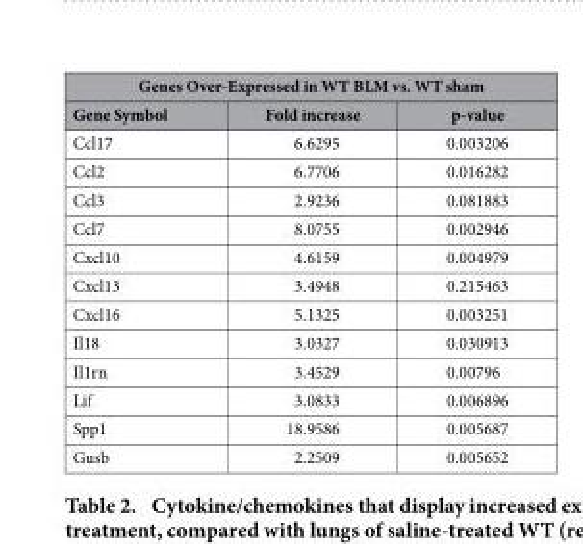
<table><thead><tr><td colspan="3">Genes Over-Expressed in WT BLM vs. WT sham</td></tr><tr><td>Gene Symbol</td><td>Fold increase</td><td>p-value</td></tr></thead><tbody><tr><td>Ccl17</td><td>6.6295</td><td>0.003206</td></tr><tr><td>Ccl2</td><td>6.7706</td><td>0.016282</td></tr><tr><td>Ccl3</td><td>2.9236</td><td>0.081883</td></tr><tr><td>Ccl7</td><td>8.0755</td><td>0.002946</td></tr><tr><td>Cxcl10</td><td>4.6159</td><td>0.004979</td></tr><tr><td>Cxcl13</td><td>3.4948</td><td>0.215463</td></tr><tr><td>Cxcl16</td><td>5.1325</td><td>0.003251</td></tr><tr><td>Il18</td><td>3.0327</td><td>0.030913</td></tr><tr><td>Il1rn</td><td>3.4529</td><td>0.00796</td></tr><tr><td>Lif</td><td>3.0833</td><td>0.006896</td></tr><tr><td>Spp1</td><td>18.9586</td><td>0.005687</td></tr><tr><td>Gusb</td><td>2.2509</td><td>0.005652</td></tr></tbody></table>